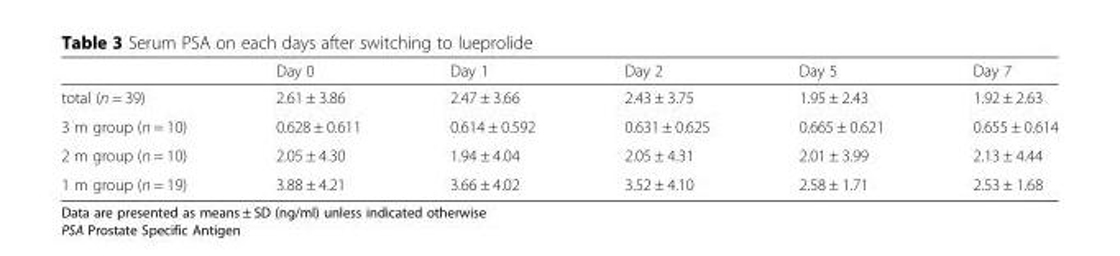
<table><thead><tr><td></td><td>Day 0</td><td>Day 1</td><td>Day 2</td><td>Day 5</td><td>Day 7</td></tr></thead><tbody><tr><td>total (n = 39)</td><td>2.61 ± 3.86</td><td>2.47 ± 3.66</td><td>2.43 ± 3.75</td><td>1.95 ± 2.43</td><td>1.92 ± 2.63</td></tr><tr><td>3 m group (n = 10)</td><td>0.628 ± 0.611</td><td>0.614 ± 0.592</td><td>0.631 ± 0.625</td><td>0.665 ± 0.621</td><td>0.655 ± 0.614</td></tr><tr><td>2 m group (n = 10)</td><td>2.05 ± 4.30</td><td>1.94 ± 4.04</td><td>2.05 ± 4.31</td><td>2.01 ± 3.99</td><td>2.13 ± 4.44</td></tr><tr><td>1 m group (n = 19)</td><td>3.88 ± 4.21</td><td>3.66 ± 4.02</td><td>3.52 ± 4.10</td><td>2.58 ± 1.71</td><td>2.53 ± 1.68</td></tr></tbody></table>